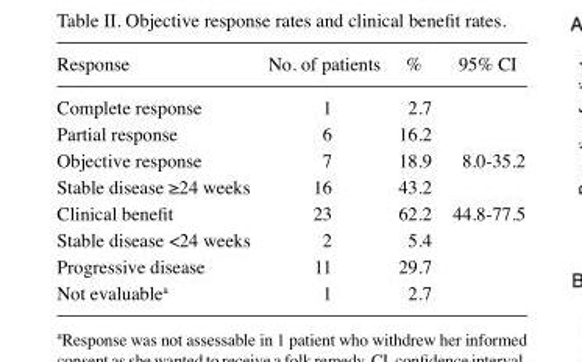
<table><thead><tr><td>Response</td><td>No. of patients</td><td>%</td><td>95% CI</td></tr></thead><tbody><tr><td>Complete response</td><td>1</td><td>2.7</td><td></td></tr><tr><td>Partial response</td><td>6</td><td>16.2</td><td></td></tr><tr><td>Objective response</td><td>7</td><td>18.9</td><td>8.0-35.2</td></tr><tr><td>Stable disease ≥24 weeks</td><td>16</td><td>43.2</td><td></td></tr><tr><td>Clinical benefit</td><td>23</td><td>62.2</td><td>44.8-77.5</td></tr><tr><td>Stable disease &lt;24 weeks</td><td>2</td><td>5.4</td><td></td></tr><tr><td>Progressive disease</td><td>11</td><td>29.7</td><td></td></tr><tr><td>Not evaluable<sup>a</sup></td><td>1</td><td>2.7</td><td></td></tr></tbody></table>